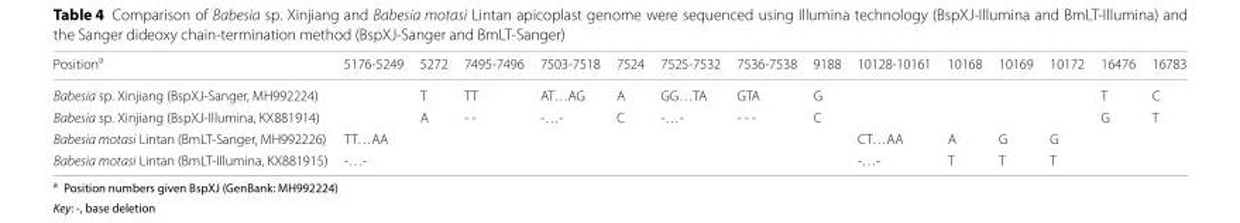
<table><thead><tr><td>Position<sup>a</sup></td><td>5176-5249</td><td>5272</td><td>7495-7496</td><td>7503-7518</td><td>7524</td><td>7525-7532</td><td>7536-7538</td><td>9188</td><td>10128-10161</td><td>10168</td><td>10169</td><td>10172</td><td>16476</td><td>16783</td></tr></thead><tbody><tr><td>Babesia sp. Xinjiang (BspXJ-Sanger, MH992224)</td><td></td><td>T</td><td>TT</td><td>AT…AG</td><td>A</td><td>GG…TA</td><td>GTA</td><td>G</td><td></td><td></td><td></td><td></td><td>T</td><td>C</td></tr><tr><td>Babesia sp. Xinjiang (BspXJ-Illumina, KX881914)</td><td></td><td>A</td><td>- -</td><td>-…-</td><td>C</td><td>-…-</td><td>- - -</td><td>C</td><td></td><td></td><td></td><td></td><td>G</td><td>T</td></tr><tr><td>Babesia motasi Lintan (BmLT-Sanger, MH992226)</td><td>TT…AA</td><td></td><td></td><td></td><td></td><td></td><td></td><td></td><td>CT…AA</td><td>A</td><td>G</td><td>G</td><td></td><td></td></tr><tr><td>Babesia motasi Lintan (BmLT-Illumina, KX881915)</td><td>-…-</td><td></td><td></td><td></td><td></td><td></td><td></td><td></td><td>-…-</td><td>T</td><td>T</td><td>T</td><td></td><td></td></tr></tbody></table>